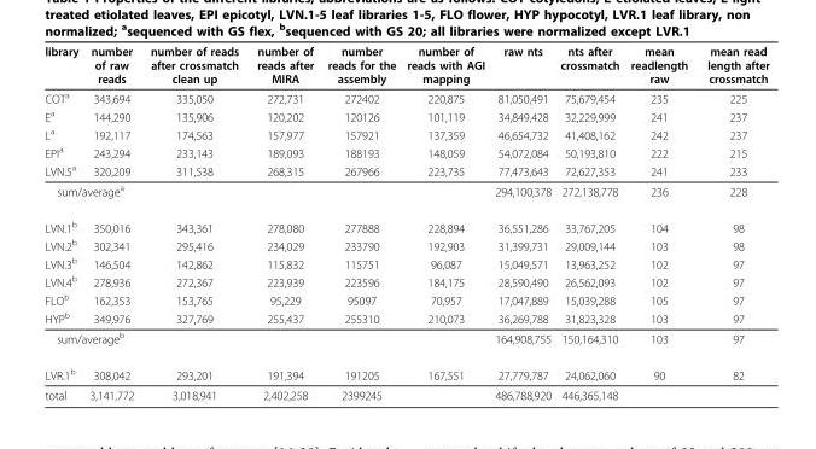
<table><thead><tr><td>library</td><td>number of raw reads</td><td>number of reads after crossmatch clean up</td><td>number of reads after MIRA</td><td>number reads for the assembly</td><td>number of reads with AGI mapping</td><td>raw nts</td><td>nts after crossmatch</td><td>mean readlength raw</td><td>mean read length after crossmatch</td></tr></thead><tbody><tr><td>COT<sup>a</sup></td><td>343,694</td><td>335,050</td><td>272,731</td><td>272402</td><td>220,875</td><td>81,050,491</td><td>75,679,454</td><td>235</td><td>225</td></tr><tr><td>E<sup>a</sup></td><td>144,290</td><td>135,906</td><td>120,202</td><td>120126</td><td>101,119</td><td>34,849,428</td><td>32,229,999</td><td>241</td><td>237</td></tr><tr><td>L<sup>a</sup></td><td>192,117</td><td>174,563</td><td>157,977</td><td>157921</td><td>137,359</td><td>46,654,732</td><td>41,408,162</td><td>242</td><td>237</td></tr><tr><td>EPI<sup>a</sup></td><td>243,294</td><td>233,143</td><td>189,093</td><td>188193</td><td>148,059</td><td>54,072,084</td><td>50,193,810</td><td>222</td><td>215</td></tr><tr><td>LVN.5<sup>a</sup></td><td>320,209</td><td>311,538</td><td>268,315</td><td>267966</td><td>223,735</td><td>77,473,643</td><td>72,627,353</td><td>241</td><td>233</td></tr><tr><td colspan="2">sum/average<sup>a</sup></td><td></td><td></td><td></td><td></td><td>294,100,378</td><td>272,138,778</td><td>236</td><td>228</td></tr><tr><td>LVN.1<sup>b</sup></td><td>350,016</td><td>343,361</td><td>278,080</td><td>277888</td><td>228,894</td><td>36,551,286</td><td>33,767,205</td><td>104</td><td>98</td></tr><tr><td>LVN.2<sup>b</sup></td><td>302,341</td><td>295,416</td><td>234,029</td><td>233790</td><td>192,903</td><td>31,399,731</td><td>29,009,144</td><td>103</td><td>98</td></tr><tr><td>LVN.3<sup>b</sup></td><td>146,504</td><td>142,862</td><td>115,832</td><td>115751</td><td>96,087</td><td>15,049,571</td><td>13,963,252</td><td>102</td><td>97</td></tr><tr><td>LVN.4<sup>b</sup></td><td>278,936</td><td>272,367</td><td>223,939</td><td>223596</td><td>184,175</td><td>28,590,490</td><td>26,562,093</td><td>102</td><td>97</td></tr><tr><td>FLO<sup>b</sup></td><td>162,353</td><td>153,765</td><td>95,229</td><td>95097</td><td>70,957</td><td>17,047,889</td><td>15,039,288</td><td>105</td><td>97</td></tr><tr><td>HYP<sup>b</sup></td><td>349,976</td><td>327,769</td><td>255,437</td><td>255310</td><td>210,073</td><td>36,269,788</td><td>31,823,328</td><td>103</td><td>97</td></tr><tr><td colspan="2">sum/average<sup>b</sup></td><td></td><td></td><td></td><td></td><td>164,908,755</td><td>150,164,310</td><td>103</td><td>97</td></tr><tr><td>LVR.1<sup>b</sup></td><td>308,042</td><td>293,201</td><td>191,394</td><td>191205</td><td>167,551</td><td>27,779,787</td><td>24,062,060</td><td>90</td><td>82</td></tr><tr><td>total</td><td>3,141,772</td><td>3,018,941</td><td>2,402,258</td><td>2399245</td><td></td><td>486,788,920</td><td>446,365,148</td><td></td><td></td></tr></tbody></table>